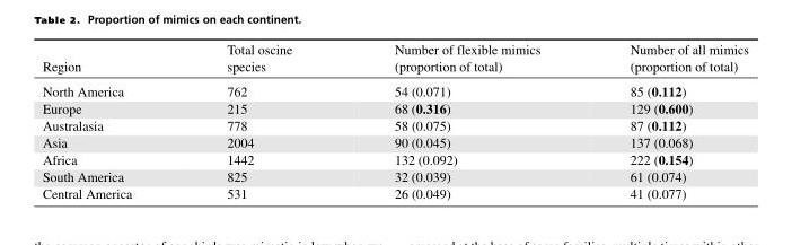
<table><thead><tr><td>Region</td><td>Total oscine species</td><td>Number of flexible mimics (proportion of total)</td><td>Number of all mimics (proportion of total)</td></tr></thead><tbody><tr><td>North America</td><td>762</td><td>54 (0.071)</td><td>85 (0.112)</td></tr><tr><td>Europe</td><td>215</td><td>68 (0.316)</td><td>129 (0.600)</td></tr><tr><td>Australasia</td><td>778</td><td>58 (0.075)</td><td>87 (0.112)</td></tr><tr><td>Asia</td><td>2004</td><td>90 (0.045)</td><td>137 (0.068)</td></tr><tr><td>Africa</td><td>1442</td><td>132 (0.092)</td><td>222 (0.154)</td></tr><tr><td>South America</td><td>825</td><td>32 (0.039)</td><td>61 (0.074)</td></tr><tr><td>Central America</td><td>531</td><td>26 (0.049)</td><td>41 (0.077)</td></tr></tbody></table>